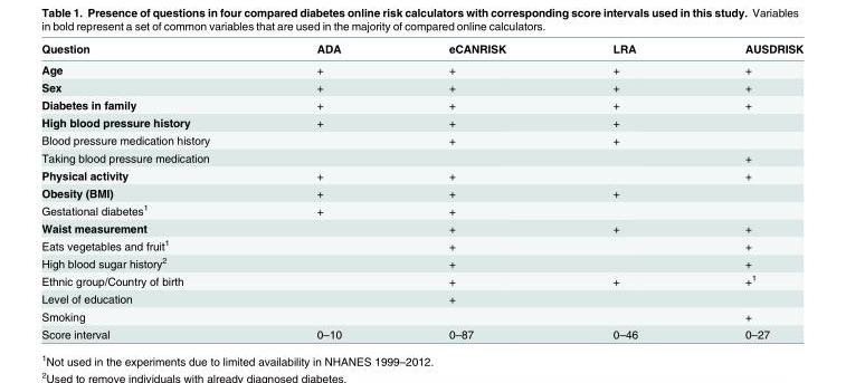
<table><thead><tr><td>Question</td><td>ADA</td><td>eCANRISK</td><td>LRA</td><td>AUSDRISK</td></tr></thead><tbody><tr><td>Age</td><td>+</td><td>+</td><td>+</td><td>+</td></tr><tr><td>Sex</td><td>+</td><td>+</td><td>+</td><td>+</td></tr><tr><td>Diabetes in family</td><td>+</td><td>+</td><td>+</td><td>+</td></tr><tr><td>High blood pressure history</td><td>+</td><td>+</td><td>+</td><td></td></tr><tr><td>Blood pressure medication history</td><td></td><td>+</td><td>+</td><td></td></tr><tr><td>Taking blood pressure medication</td><td></td><td></td><td></td><td>+</td></tr><tr><td>Physical activity</td><td>+</td><td>+</td><td></td><td>+</td></tr><tr><td>Obesity (BMI)</td><td>+</td><td>+</td><td>+</td><td></td></tr><tr><td>Gestational diabetes<sup>1</sup></td><td>+</td><td>+</td><td></td><td></td></tr><tr><td>Waist measurement</td><td></td><td>+</td><td>+</td><td>+</td></tr><tr><td>Eats vegetables and fruit<sup>1</sup></td><td></td><td>+</td><td></td><td>+</td></tr><tr><td>High blood sugar history<sup>2</sup></td><td></td><td>+</td><td></td><td>+</td></tr><tr><td>Ethnic group/Country of birth</td><td></td><td>+</td><td>+</td><td>+<sup>1</sup></td></tr><tr><td>Level of education</td><td></td><td>+</td><td></td><td></td></tr><tr><td>Smoking</td><td></td><td></td><td></td><td>+</td></tr><tr><td>Score interval</td><td>0–10</td><td>0–87</td><td>0–46</td><td>0–27</td></tr></tbody></table>